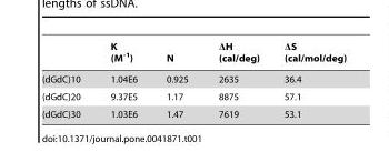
<table><thead><tr><td></td><td>K (M<sup>-1</sup>)</td><td>N</td><td>ΔH (cal/deg)</td><td>ΔS (cal/mol/deg)</td></tr></thead><tbody><tr><td>(dGdC)10</td><td>1.04E6</td><td>0.925</td><td>2635</td><td>36.4</td></tr><tr><td>(dGdC)20</td><td>9.37E5</td><td>1.17</td><td>8875</td><td>57.1</td></tr><tr><td>(dGdC)30</td><td>1.03E6</td><td>1.47</td><td>7619</td><td>53.1</td></tr></tbody></table>